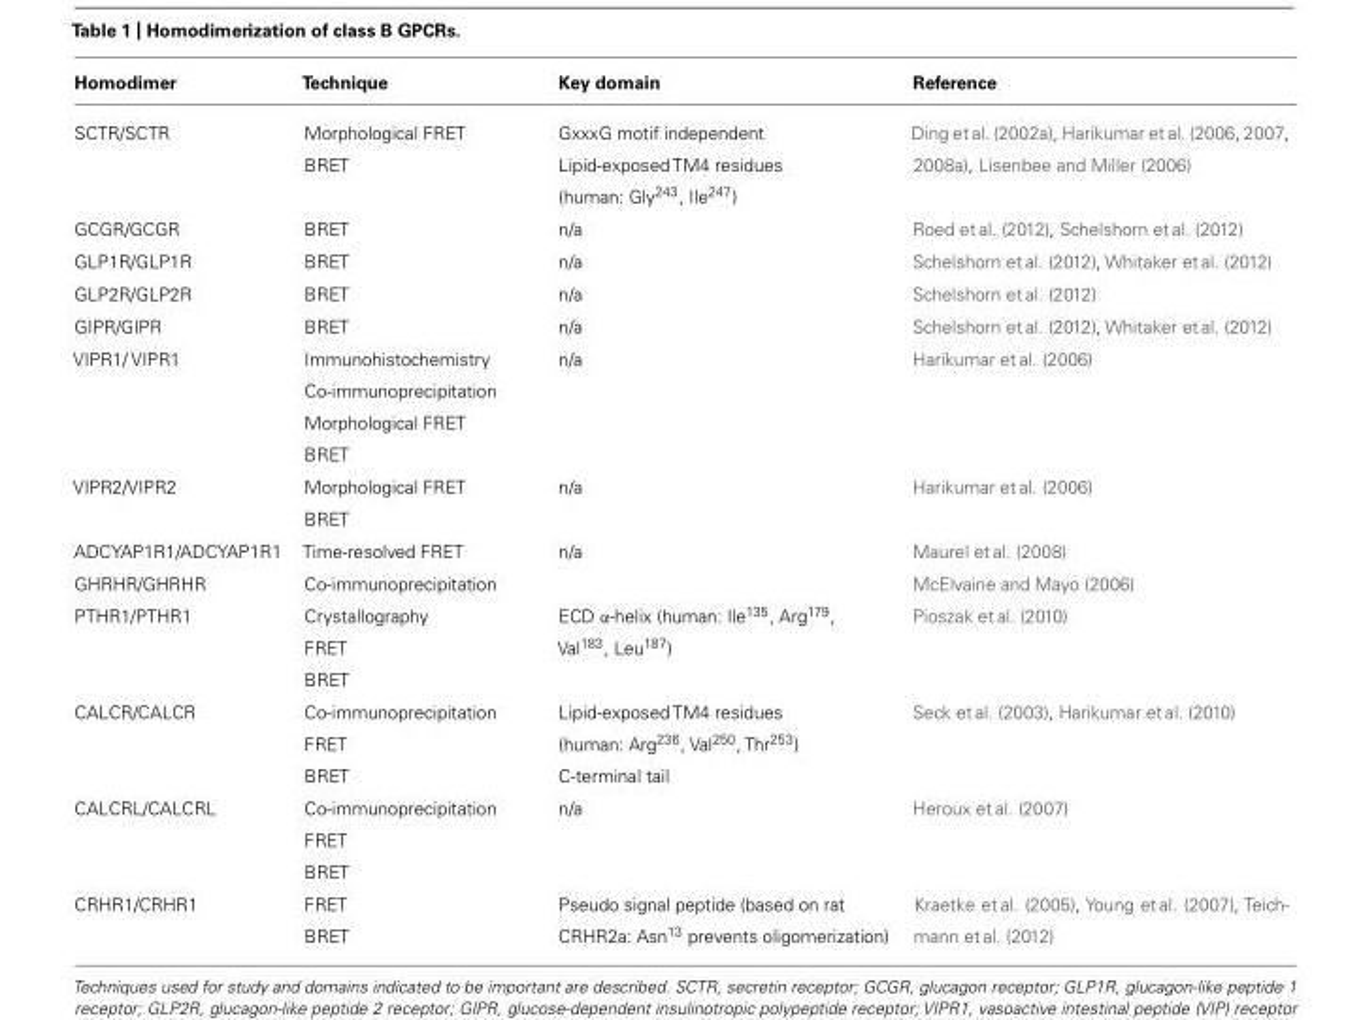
<table><thead><tr><td>Homodimer</td><td>Technique</td><td>Key domain</td><td>Reference</td></tr></thead><tbody><tr><td>SCTR/SCTR</td><td>Morphological FRET BRET</td><td>GxxxG motif independent Lipid-exposed TM4 residues (human: Gly<sup>243</sup>, Ile<sup>247</sup>)</td><td>Ding et al. (2002a), Harikumar et al. (2006, 2007, 2008a), Lisenbee and Miller (2006)</td></tr><tr><td>GCGR/GCGR</td><td>BRET</td><td>n/a</td><td>Roed et al. (2012), Schelshorn et al. (2012)</td></tr><tr><td>GLP1R/GLP1R</td><td>BRET</td><td>n/a</td><td>Schelshorn et al. (2012), Whitaker et al. (2012)</td></tr><tr><td>GLP2R/GLP2R</td><td>BRET</td><td>n/a</td><td>Schelshorn et al. (2012)</td></tr><tr><td>GIPR/GIPR</td><td>BRET</td><td>n/a</td><td>Schelshorn et al. (2012), Whitaker et al. (2012)</td></tr><tr><td>VIPR1/ VIPR1</td><td>Immunohistochemistry Co-immunoprecipitation Morphological FRET BRET</td><td>n/a</td><td>Harikumar et al. (2006)</td></tr><tr><td>VIPR2/VIPR2</td><td>Morphological FRET BRET</td><td>n/a</td><td>Harikumar et al. (2006)</td></tr><tr><td>ADCYAP1R1/ADCYAP1R1</td><td>Time-resolved FRET</td><td>n/a</td><td>Maurel et al. (2008)</td></tr><tr><td>GHRHR/GHRHR</td><td>Co-immunoprecipitation</td><td></td><td>McElvaine and Mayo (2006)</td></tr><tr><td>PTHR1/PTHR1</td><td>Crystallography FRET BRET</td><td>ECD α-helix (human: Ile<sup>135</sup>, Arg<sup>179</sup>, Val<sup>183</sup>, Leu<sup>187</sup>)</td><td>Pioszak et al. (2010)</td></tr><tr><td>CALCR/CALCR</td><td>Co-immunoprecipitation FRET BRET</td><td>Lipid-exposed TM4 residues (human: Arg<sup>236</sup>, Val<sup>250</sup>, Thr<sup>253</sup>) C-terminal tail</td><td>Seck et al. (2003), Harikumar et al. (2010)</td></tr><tr><td>CALCRL/CALCRL</td><td>Co-immunoprecipitation FRET BRET</td><td>n/a</td><td>Heroux et al. (2007)</td></tr><tr><td>CRHR1/CRHR1</td><td>FRET BRET</td><td>Pseudo signal peptide (based on rat CRHR2a: Asn<sup>13</sup> prevents oligomerization)</td><td>Kraetke et al. (2005), Young et al. (2007), Teich- mann et al. (2012)</td></tr></tbody></table>